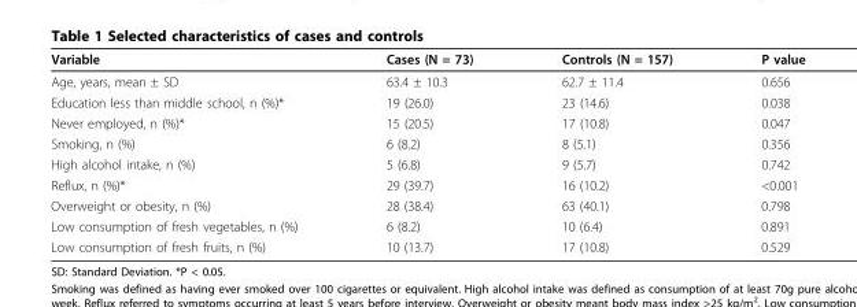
<table><thead><tr><td>Variable</td><td>Cases (N = 73)</td><td>Controls (N = 157)</td><td>P value</td></tr></thead><tbody><tr><td>Age, years, mean ± SD</td><td>63.4 ± 10.3</td><td>62.7 ± 11.4</td><td>0.656</td></tr><tr><td>Education less than middle school, n (%)*</td><td>19 (26.0)</td><td>23 (14.6)</td><td>0.038</td></tr><tr><td>Never employed, n (%)*</td><td>15 (20.5)</td><td>17 (10.8)</td><td>0.047</td></tr><tr><td>Smoking, n (%)</td><td>6 (8.2)</td><td>8 (5.1)</td><td>0.356</td></tr><tr><td>High alcohol intake, n (%)</td><td>5 (6.8)</td><td>9 (5.7)</td><td>0.742</td></tr><tr><td>Reflux, n (%)*</td><td>29 (39.7)</td><td>16 (10.2)</td><td>&lt;0.001</td></tr><tr><td>Overweight or obesity, n (%)</td><td>28 (38.4)</td><td>63 (40.1)</td><td>0.798</td></tr><tr><td>Low consumption of fresh vegetables, n (%)</td><td>6 (8.2)</td><td>10 (6.4)</td><td>0.891</td></tr><tr><td>Low consumption of fresh fruits, n (%)</td><td>10 (13.7)</td><td>17 (10.8)</td><td>0.529</td></tr></tbody></table>